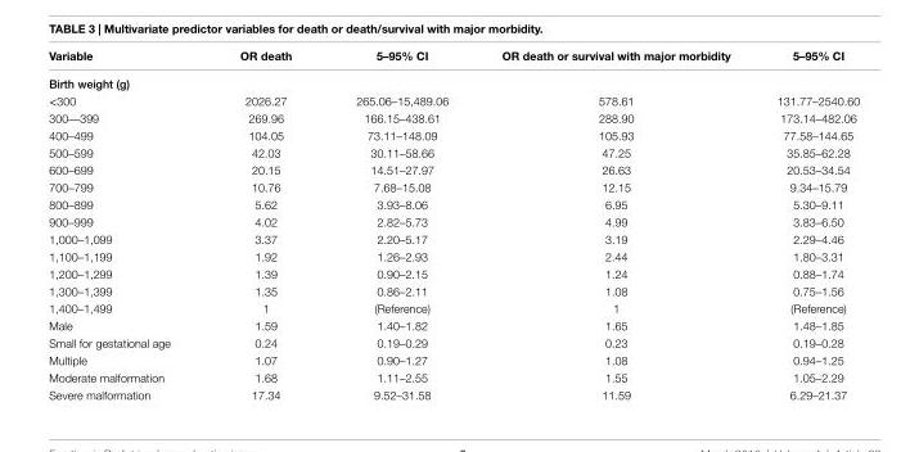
<table><thead><tr><td>Variable</td><td>Or death</td><td>5–95% ci</td><td>Or death or survival with major morbidity</td><td>5–95% ci</td></tr></thead><tbody><tr><td colspan="5">Birth weight (g)</td></tr><tr><td>&lt;300</td><td>2026.27</td><td>265.06–15,489.06</td><td>578.61</td><td>131.77–2540.60</td></tr><tr><td>300––399</td><td>269.96</td><td>166.15–438.61</td><td>288.90</td><td>173.14–482.06</td></tr><tr><td>400–499</td><td>104.05</td><td>73.11–148.09</td><td>105.93</td><td>77.58–144.65</td></tr><tr><td>500–599</td><td>42.03</td><td>30.11–58.66</td><td>47.25</td><td>35.85–62.28</td></tr><tr><td>600–699</td><td>20.15</td><td>14.51–27.97</td><td>26.63</td><td>20.53–34.54</td></tr><tr><td>700–799</td><td>10.76</td><td>7.68–15.08</td><td>12.15</td><td>9.34–15.79</td></tr><tr><td>800–899</td><td>5.62</td><td>3.93–8.06</td><td>6.95</td><td>5.30–9.11</td></tr><tr><td>900–999</td><td>4.02</td><td>2.82–5.73</td><td>4.99</td><td>3.83–6.50</td></tr><tr><td>1,000–1,099</td><td>3.37</td><td>2.20–5.17</td><td>3.19</td><td>2.29–4.46</td></tr><tr><td>1,100–1,199</td><td>1.92</td><td>1.26–2.93</td><td>2.44</td><td>1.80–3.31</td></tr><tr><td>1,200–1,299</td><td>1.39</td><td>0.90–2.15</td><td>1.24</td><td>0.88–1.74</td></tr><tr><td>1,300–1,399</td><td>1.35</td><td>0.86–2.11</td><td>1.08</td><td>0.75–1.56</td></tr><tr><td>1,400–1,499</td><td>1</td><td>(Reference)</td><td>1</td><td>(Reference)</td></tr><tr><td>Male</td><td>1.59</td><td>1.40–1.82</td><td>1.65</td><td>1.48–1.85</td></tr><tr><td>Small for gestational age</td><td>0.24</td><td>0.19–0.29</td><td>0.23</td><td>0.19–0.28</td></tr><tr><td>Multiple</td><td>1.07</td><td>0.90–1.27</td><td>1.08</td><td>0.94–1.25</td></tr><tr><td>Moderate malformation</td><td>1.68</td><td>1.11–2.55</td><td>1.55</td><td>1.05–2.29</td></tr><tr><td>Severe malformation</td><td>17.34</td><td>9.52–31.58</td><td>11.59</td><td>6.29–21.37</td></tr></tbody></table>